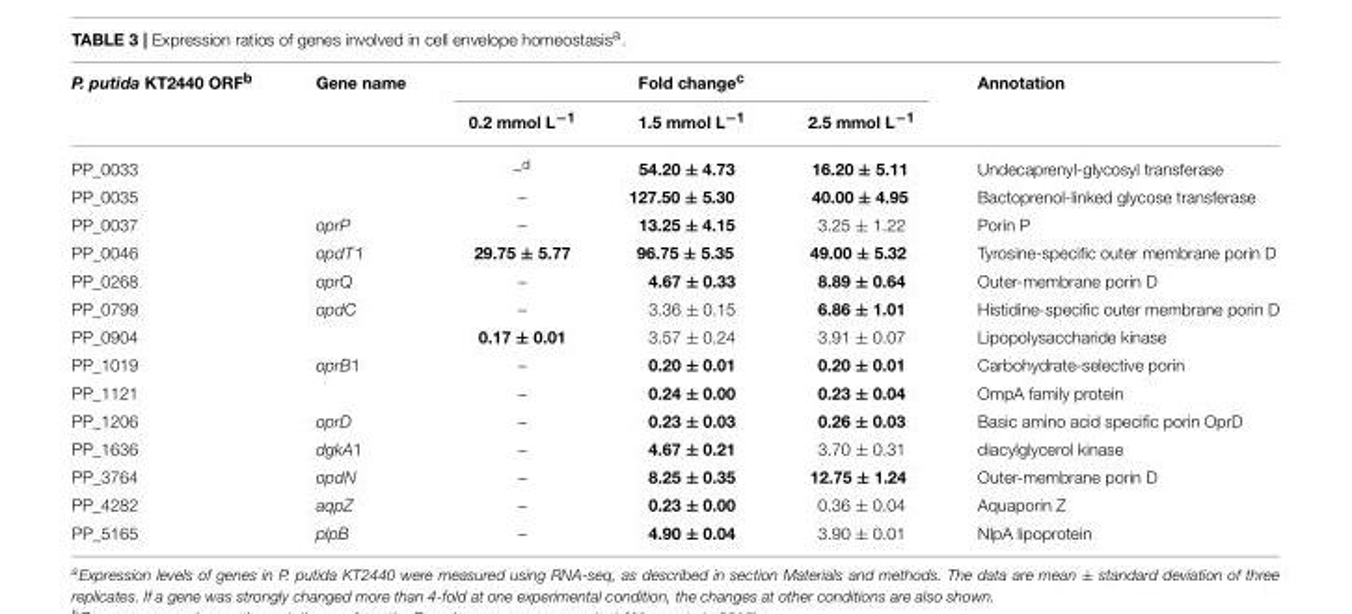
<table><thead><tr><td rowspan="2">P. putida KT2440 ORF<sup>b</sup></td><td rowspan="2">Gene name</td><td colspan="3">Fold change<sup>c</sup></td><td rowspan="2">Annotation</td></tr><tr><td>0.2 mmol L<sup>−1</sup></td><td>1.5 mmol L<sup>−1</sup></td><td>2.5 mmol L<sup>−1</sup></td></tr></thead><tbody><tr><td>PP_0033</td><td></td><td>–<sup>d</sup></td><td>54.20 ± 4.73</td><td>16.20 ± 5.11</td><td>Undecaprenyl-glycosyl transferase</td></tr><tr><td>PP_0035</td><td></td><td>–</td><td>127.50 ± 5.30</td><td>40.00 ± 4.95</td><td>Bactoprenol-linked glycose transferase</td></tr><tr><td>PP_0037</td><td>oprP</td><td>–</td><td>13.25 ± 4.15</td><td>3.25 ± 1.22</td><td>Porin P</td></tr><tr><td>PP_0046</td><td>opdT1</td><td>29.75 ± 5.77</td><td>96.75 ± 5.35</td><td>49.00 ± 5.32</td><td>Tyrosine-specific outer membrane porin D</td></tr><tr><td>PP_0268</td><td>oprQ</td><td>–</td><td>4.67 ± 0.33</td><td>8.89 ± 0.64</td><td>Outer-membrane porin D</td></tr><tr><td>PP_0799</td><td>opdC</td><td>–</td><td>3.36 ± 0.15</td><td>6.86 ± 1.01</td><td>Histidine-specific outer membrane porin D</td></tr><tr><td>PP_0904</td><td></td><td>0.17 ± 0.01</td><td>3.57 ± 0.24</td><td>3.91 ± 0.07</td><td>Lipopolysaccharide kinase</td></tr><tr><td>PP_1019</td><td>oprB1</td><td>–</td><td>0.20 ± 0.01</td><td>0.20 ± 0.01</td><td>Carbohydrate-selective porin</td></tr><tr><td>PP_1121</td><td></td><td>–</td><td>0.24 ± 0.00</td><td>0.23 ± 0.04</td><td>OmpA family protein</td></tr><tr><td>PP_1206</td><td>oprD</td><td>–</td><td>0.23 ± 0.03</td><td>0.26 ± 0.03</td><td>Basic amino acid specific porin OprD</td></tr><tr><td>PP_1636</td><td>dgkA1</td><td>–</td><td>4.67 ± 0.21</td><td>3.70 ± 0.31</td><td>diacylglycerol kinase</td></tr><tr><td>PP_3764</td><td>opdN</td><td>–</td><td>8.25 ± 0.35</td><td>12.75 ± 1.24</td><td>Outer-membrane porin D</td></tr><tr><td>PP_4282</td><td>aqpZ</td><td>–</td><td>0.23 ± 0.00</td><td>0.36 ± 0.04</td><td>Aquaporin Z</td></tr><tr><td>PP_5165</td><td>plpB</td><td>–</td><td>4.90 ± 0.04</td><td>3.90 ± 0.01</td><td>NlpA lipoprotein</td></tr></tbody></table>